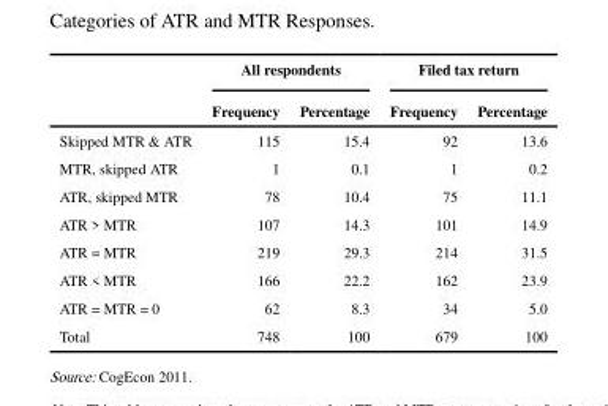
<table><thead><tr><td rowspan="2"></td><td colspan="2">All respondents</td><td colspan="2">Filed tax return</td></tr><tr><td>Frequency</td><td>Percentage</td><td>Frequency</td><td>Percentage</td></tr></thead><tbody><tr><td>Skipped MTR &amp; ATR</td><td>115</td><td>15.4</td><td>92</td><td>13.6</td></tr><tr><td>MTR, skipped ATR</td><td>1</td><td>0.1</td><td>1</td><td>0.2</td></tr><tr><td>ATR, skipped MTR</td><td>78</td><td>10.4</td><td>75</td><td>11.1</td></tr><tr><td>ATR &gt; MTR</td><td>107</td><td>14.3</td><td>101</td><td>14.9</td></tr><tr><td>ATR = MTR</td><td>219</td><td>29.3</td><td>214</td><td>31.5</td></tr><tr><td>ATR &lt; MTR</td><td>166</td><td>22.2</td><td>162</td><td>23.9</td></tr><tr><td>ATR = MTR = 0</td><td>62</td><td>8.3</td><td>34</td><td>5.0</td></tr><tr><td>Total</td><td>748</td><td>100</td><td>679</td><td>100</td></tr></tbody></table>